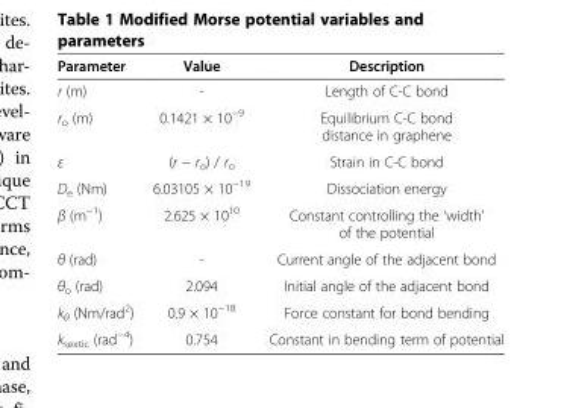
<table><thead><tr><td>Parameter</td><td>Value</td><td>Description</td></tr></thead><tbody><tr><td>r (m)</td><td>-</td><td>Length of C-C bond</td></tr><tr><td>r<sub>o</sub> (m)</td><td>0.1421 × 10<sup>−9</sup></td><td>Equilibrium C-C bond distance in graphene</td></tr><tr><td>ε</td><td>(r − r<sub>o</sub>) / r<sub>o</sub></td><td>Strain in C-C bond</td></tr><tr><td>D<sub>e</sub> (Nm)</td><td>6.03105 × 10<sup>−19</sup></td><td>Dissociation energy</td></tr><tr><td>β (m<sup>−1</sup>)</td><td>2.625 × 10<sup>10</sup></td><td>Constant controlling the ‘width’ of the potential</td></tr><tr><td>θ (rad)</td><td>-</td><td>Current angle of the adjacent bond</td></tr><tr><td>θ<sub>o</sub> (rad)</td><td>2.094</td><td>Initial angle of the adjacent bond</td></tr><tr><td>k<sub>θ</sub> (Nm/rad<sup>2</sup>)</td><td>0.9 × 10<sup>−18</sup></td><td>Force constant for bond bending</td></tr><tr><td>k<sub>sextic</sub> (rad<sup>−4</sup>)</td><td>0.754</td><td>Constant in bending term of potential</td></tr></tbody></table>